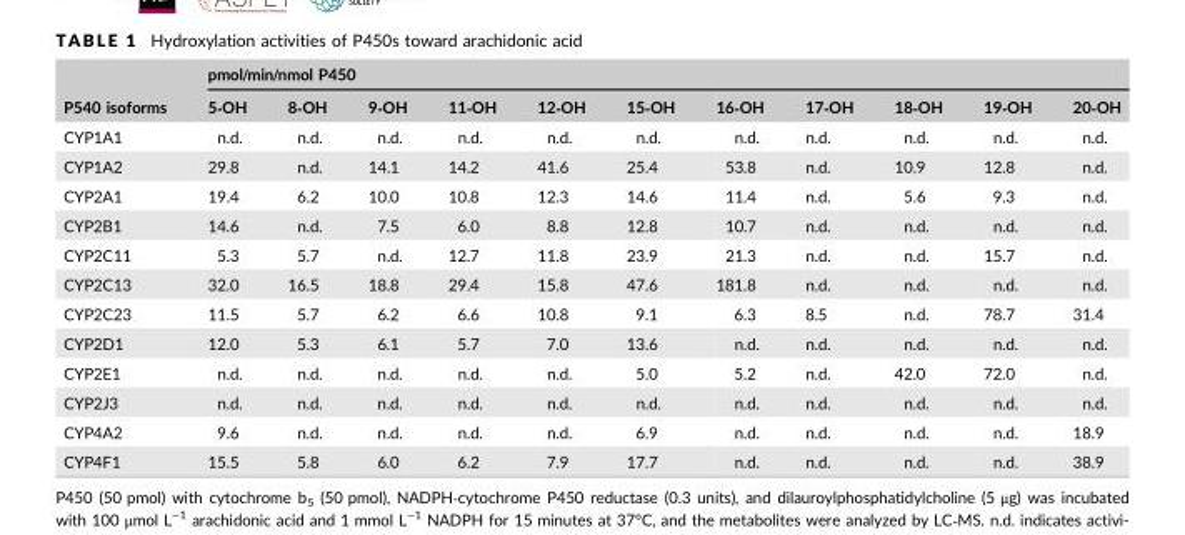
<table><thead><tr><td rowspan="2">P540 isoforms</td><td colspan="11">pmol/min/nmol P450</td></tr><tr><td>5‐OH</td><td>8‐OH</td><td>9‐OH</td><td>11‐OH</td><td>12‐OH</td><td>15‐OH</td><td>16‐OH</td><td>17‐OH</td><td>18‐OH</td><td>19‐OH</td><td>20‐OH</td></tr></thead><tbody><tr><td>CYP1A1</td><td>n.d.</td><td>n.d.</td><td>n.d.</td><td>n.d.</td><td>n.d.</td><td>n.d.</td><td>n.d.</td><td>n.d.</td><td>n.d.</td><td>n.d.</td><td>n.d.</td></tr><tr><td>CYP1A2</td><td>29.8</td><td>n.d.</td><td>14.1</td><td>14.2</td><td>41.6</td><td>25.4</td><td>53.8</td><td>n.d.</td><td>10.9</td><td>12.8</td><td>n.d.</td></tr><tr><td>CYP2A1</td><td>19.4</td><td>6.2</td><td>10.0</td><td>10.8</td><td>12.3</td><td>14.6</td><td>11.4</td><td>n.d.</td><td>5.6</td><td>9.3</td><td>n.d.</td></tr><tr><td>CYP2B1</td><td>14.6</td><td>n.d.</td><td>7.5</td><td>6.0</td><td>8.8</td><td>12.8</td><td>10.7</td><td>n.d.</td><td>n.d.</td><td>n.d.</td><td>n.d.</td></tr><tr><td>CYP2C11</td><td>5.3</td><td>5.7</td><td>n.d.</td><td>12.7</td><td>11.8</td><td>23.9</td><td>21.3</td><td>n.d.</td><td>n.d.</td><td>15.7</td><td>n.d.</td></tr><tr><td>CYP2C13</td><td>32.0</td><td>16.5</td><td>18.8</td><td>29.4</td><td>15.8</td><td>47.6</td><td>181.8</td><td>n.d.</td><td>n.d.</td><td>n.d.</td><td>n.d.</td></tr><tr><td>CYP2C23</td><td>11.5</td><td>5.7</td><td>6.2</td><td>6.6</td><td>10.8</td><td>9.1</td><td>6.3</td><td>8.5</td><td>n.d.</td><td>78.7</td><td>31.4</td></tr><tr><td>CYP2D1</td><td>12.0</td><td>5.3</td><td>6.1</td><td>5.7</td><td>7.0</td><td>13.6</td><td>n.d.</td><td>n.d.</td><td>n.d.</td><td>n.d.</td><td>n.d.</td></tr><tr><td>CYP2E1</td><td>n.d.</td><td>n.d.</td><td>n.d.</td><td>n.d.</td><td>n.d.</td><td>5.0</td><td>5.2</td><td>n.d.</td><td>42.0</td><td>72.0</td><td>n.d.</td></tr><tr><td>CYP2J3</td><td>n.d.</td><td>n.d.</td><td>n.d.</td><td>n.d.</td><td>n.d.</td><td>n.d.</td><td>n.d.</td><td>n.d.</td><td>n.d.</td><td>n.d.</td><td>n.d.</td></tr><tr><td>CYP4A2</td><td>9.6</td><td>n.d.</td><td>n.d.</td><td>n.d.</td><td>n.d.</td><td>6.9</td><td>n.d.</td><td>n.d.</td><td>n.d.</td><td>n.d.</td><td>18.9</td></tr><tr><td>CYP4F1</td><td>15.5</td><td>5.8</td><td>6.0</td><td>6.2</td><td>7.9</td><td>17.7</td><td>n.d.</td><td>n.d.</td><td>n.d.</td><td>n.d.</td><td>38.9</td></tr></tbody></table>